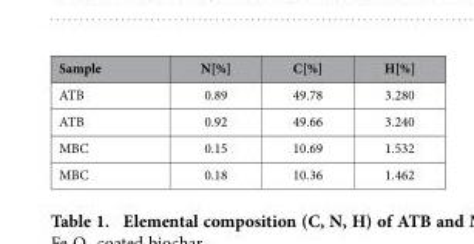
<table><thead><tr><td>Sample</td><td>N[%]</td><td>C[%]</td><td>H[%]</td></tr></thead><tbody><tr><td>ATB</td><td>0.89</td><td>49.78</td><td>3.280</td></tr><tr><td>ATB</td><td>0.92</td><td>49.66</td><td>3.240</td></tr><tr><td>MBC</td><td>0.15</td><td>10.69</td><td>1.532</td></tr><tr><td>MBC</td><td>0.18</td><td>10.36</td><td>1.462</td></tr></tbody></table>